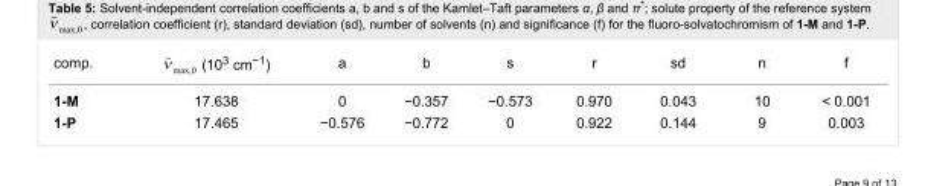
<table><tbody><tr><td>comp.</td><td>(10<sup>3</sup> cm<sup>−1</sup>)</td><td>a</td><td>b</td><td>s</td><td>r</td><td>sd</td><td>n</td><td>f</td></tr><tr><td>1-M</td><td>17.638</td><td>0</td><td>−0.357</td><td>−0.573</td><td>0.970</td><td>0.043</td><td>10</td><td>&lt; 0.001</td></tr><tr><td>1-P</td><td>17.465</td><td>−0.576</td><td>−0.772</td><td>0</td><td>0.922</td><td>0.144</td><td>9</td><td>0.003</td></tr></tbody></table>